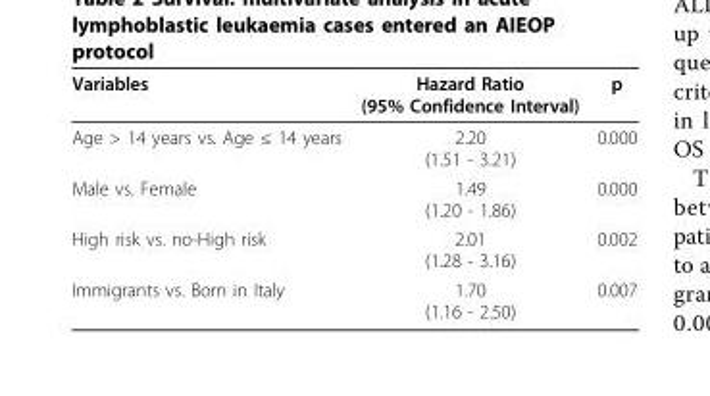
<table><thead><tr><td>Variables</td><td>Hazard Ratio (95% Confidence Interval)</td><td>p</td></tr></thead><tbody><tr><td>Age &gt; 14 years vs. Age ≤ 14 years</td><td>2.20 (1.51 - 3.21)</td><td>0.000</td></tr><tr><td>Male vs. Female</td><td>1.49 (1.20 - 1.86)</td><td>0.000</td></tr><tr><td>High risk vs. no-High risk</td><td>2.01 (1.28 - 3.16)</td><td>0.002</td></tr><tr><td>Immigrants vs. Born in Italy</td><td>1.70 (1.16 - 2.50)</td><td>0.007</td></tr></tbody></table>